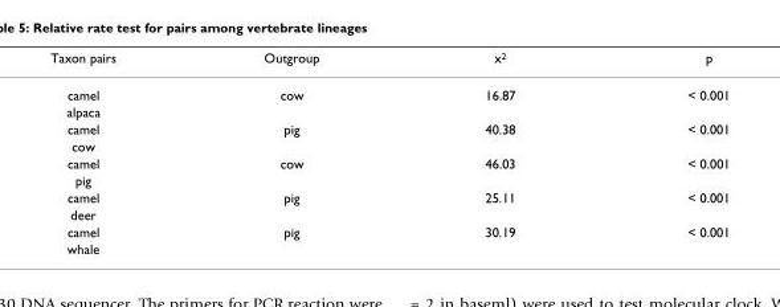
<table><thead><tr><td>Taxon pairs</td><td>Outgroup</td><td>x<sup>2</sup></td><td>p</td></tr></thead><tbody><tr><td>camel</td><td>cow</td><td>16.87</td><td>&lt; 0.001</td></tr><tr><td colspan="4">alpaca</td></tr><tr><td>camel</td><td>pig</td><td>40.38</td><td>&lt; 0.001</td></tr><tr><td colspan="4">cow</td></tr><tr><td>camel</td><td>cow</td><td>46.03</td><td>&lt; 0.001</td></tr><tr><td colspan="4">pig</td></tr><tr><td>camel</td><td>pig</td><td>25.11</td><td>&lt; 0.001</td></tr><tr><td colspan="4">deer</td></tr><tr><td>camel</td><td>pig</td><td>30.19</td><td>&lt; 0.001</td></tr><tr><td>whale</td><td></td><td></td><td></td></tr></tbody></table>